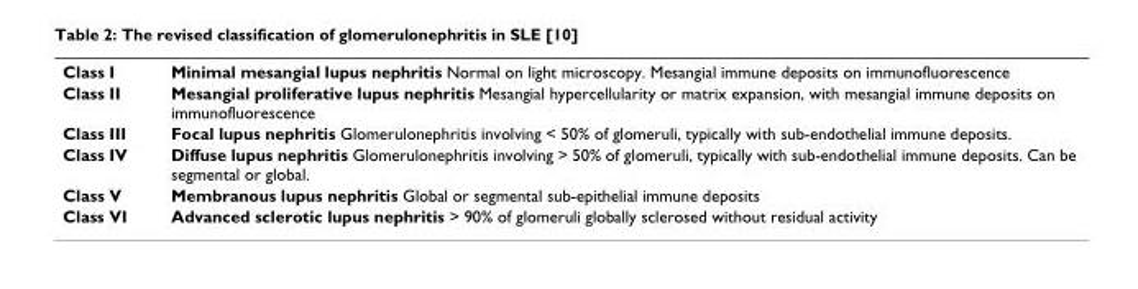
<table><tbody><tr><td>Class I</td><td>Minimal mesangial lupus nephritis Normal on light microscopy. Mesangial immune deposits on immunofluorescence</td></tr><tr><td>Class II</td><td>Mesangial proliferative lupus nephritis Mesangial hypercellularity or matrix expansion, with mesangial immune deposits on immunofluorescence</td></tr><tr><td>Class III</td><td>Focal lupus nephritis Glomerulonephritis involving &lt; 50% of glomeruli, typically with sub-endothelial immune deposits.</td></tr><tr><td>Class IV</td><td>Diffuse lupus nephritis Glomerulonephritis involving &gt; 50% of glomeruli, typically with sub-endothelial immune deposits. Can be segmental or global.</td></tr><tr><td>Class V</td><td>Membranous lupus nephritis Global or segmental sub-epithelial immune deposits</td></tr><tr><td>Class VI</td><td>Advanced sclerotic lupus nephritis &gt; 90% of glomeruli globally sclerosed without residual activity</td></tr></tbody></table>